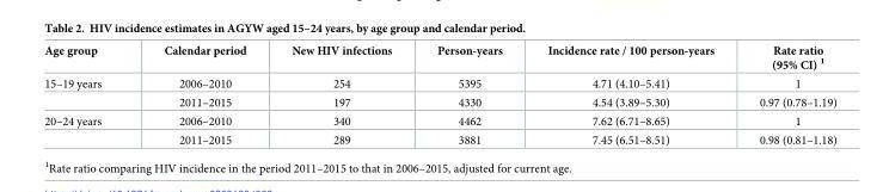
<table><thead><tr><td>Age group</td><td>Calendar period</td><td>New HIV infections</td><td>Person-years</td><td>Incidence rate / 100 person-years</td><td>Rate ratio (95% CI) <sup>1</sup></td></tr></thead><tbody><tr><td rowspan="2">15–19 years</td><td>2006–2010</td><td>254</td><td>5395</td><td>4.71 (4.10–5.41)</td><td>1</td></tr><tr><td>2011–2015</td><td>197</td><td>4330</td><td>4.54 (3.89–5.30)</td><td>0.97 (0.78–1.19)</td></tr><tr><td rowspan="2">20–24 years</td><td>2006–2010</td><td>340</td><td>4462</td><td>7.62 (6.71–8.65)</td><td>1</td></tr><tr><td>2011–2015</td><td>289</td><td>3881</td><td>7.45 (6.51–8.51)</td><td>0.98 (0.81–1.18)</td></tr></tbody></table>